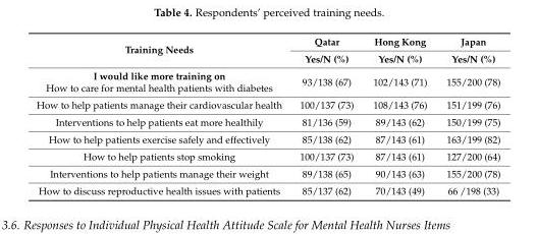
<table><thead><tr><td rowspan="2">Training Needs</td><td rowspan="2">Qatar Yes/N (%)</td><td rowspan="2">Hong Kong Yes/N (%)</td><td rowspan="2">Japan Yes/N (%)</td></tr><tr></tr></thead><tbody><tr><td>I would like more training on How to care for mental health patients with diabetes</td><td>93/138 (67)</td><td>102/143 (71)</td><td>155/200 (78)</td></tr><tr><td>How to help patients manage their cardiovascular health</td><td>100/137 (73)</td><td>108/143 (76)</td><td>151/199 (76)</td></tr><tr><td>Interventions to help patients eat more healthily</td><td>81/136 (59)</td><td>89/143 (62)</td><td>150/199 (75)</td></tr><tr><td>How to help patients exercise safely and effectively</td><td>85/138 (62)</td><td>87/143 (61)</td><td>163/199 (82)</td></tr><tr><td>How to help patients stop smoking</td><td>100/137 (73)</td><td>87/143 (61)</td><td>127/200 (64)</td></tr><tr><td>Interventions to help patients manage their weight</td><td>89/138 (65)</td><td>90/143 (63)</td><td>155/200 (78)</td></tr><tr><td>How to discuss reproductive health issues with patients</td><td>85/137 (62)</td><td>70/143 (49)</td><td>66 /198 (33)</td></tr></tbody></table>